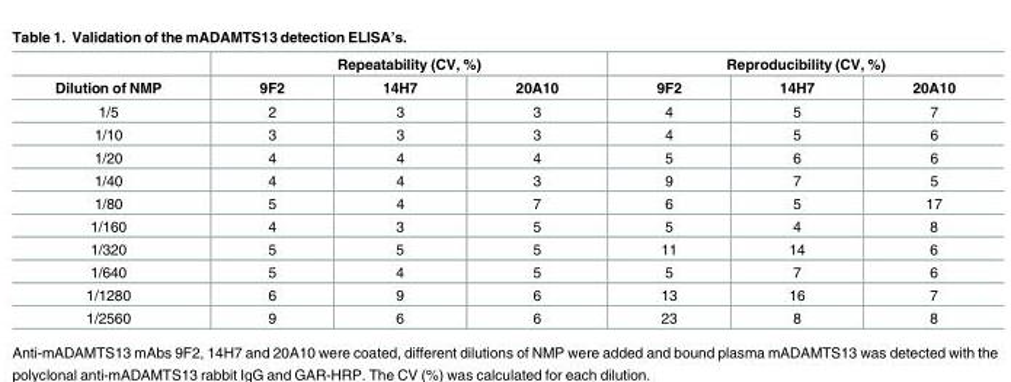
<table><thead><tr><td rowspan="2">Dilution of NMP</td><td colspan="3">Repeatability (CV, %)</td><td colspan="3">Reproducibility (CV, %)</td></tr><tr><td>9F2</td><td>14H7</td><td>20A10</td><td>9F2</td><td>14H7</td><td>20A10</td></tr></thead><tbody><tr><td>1/5</td><td>2</td><td>3</td><td>3</td><td>4</td><td>5</td><td>7</td></tr><tr><td>1/10</td><td>3</td><td>3</td><td>3</td><td>4</td><td>5</td><td>6</td></tr><tr><td>1/20</td><td>4</td><td>4</td><td>4</td><td>5</td><td>6</td><td>6</td></tr><tr><td>1/40</td><td>4</td><td>4</td><td>3</td><td>9</td><td>7</td><td>5</td></tr><tr><td>1/80</td><td>5</td><td>4</td><td>7</td><td>6</td><td>5</td><td>17</td></tr><tr><td>1/160</td><td>4</td><td>3</td><td>5</td><td>5</td><td>4</td><td>8</td></tr><tr><td>1/320</td><td>5</td><td>5</td><td>5</td><td>11</td><td>14</td><td>6</td></tr><tr><td>1/640</td><td>5</td><td>4</td><td>5</td><td>5</td><td>7</td><td>6</td></tr><tr><td>1/1280</td><td>6</td><td>9</td><td>6</td><td>13</td><td>16</td><td>7</td></tr><tr><td>1/2560</td><td>9</td><td>6</td><td>6</td><td>23</td><td>8</td><td>8</td></tr></tbody></table>